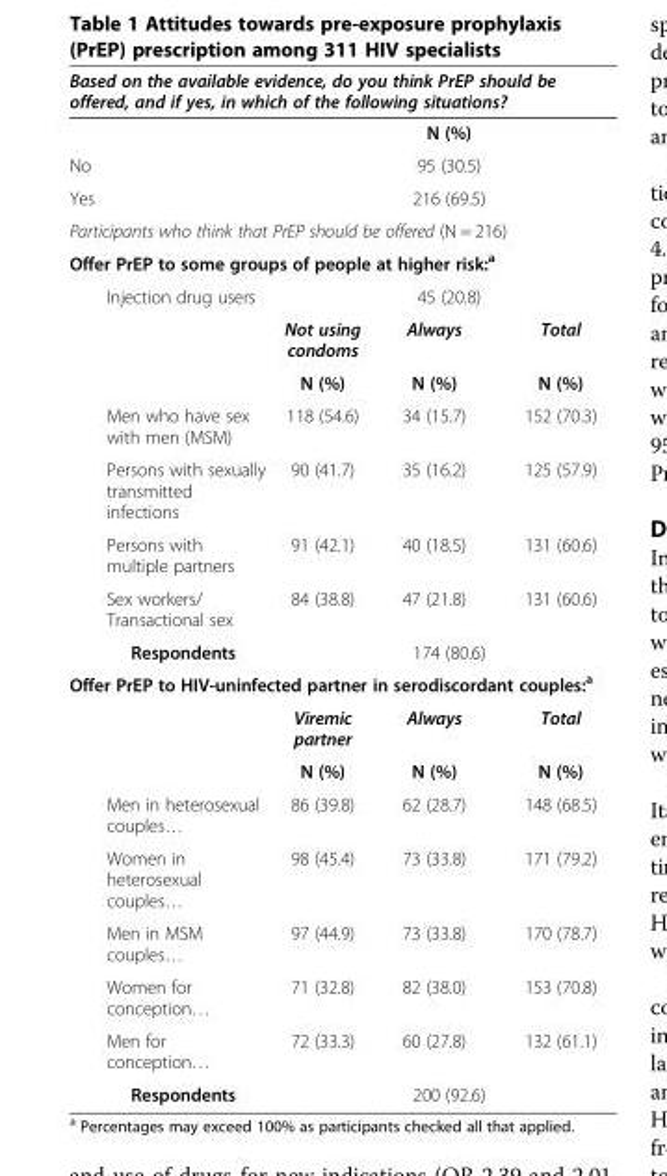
<table><thead><tr><td colspan="4">Based on the available evidence, do you think PrEP should be offered, and if yes, in which of the following situations?</td></tr></thead><tbody><tr><td></td><td colspan="3">N (%)</td></tr><tr><td>No</td><td colspan="3">95 (30.5)</td></tr><tr><td>Yes</td><td colspan="3">216 (69.5)</td></tr><tr><td colspan="4">Participants who think that PrEP should be offered (N = 216)</td></tr><tr><td colspan="4">Offer PrEP to some groups of people at higher risk:<sup>a</sup></td></tr><tr><td rowspan="3">Injection drug users</td><td colspan="3">45 (20.8)</td></tr><tr><td>Not using condoms</td><td>Always</td><td>Total</td></tr><tr><td>N (%)</td><td>N (%)</td><td>N (%)</td></tr><tr><td>Men who have sex with men (MSM)</td><td>118 (54.6)</td><td>34 (15.7)</td><td>152 (70.3)</td></tr><tr><td>Persons with sexually transmitted infections</td><td>90 (41.7)</td><td>35 (16.2)</td><td>125 (57.9)</td></tr><tr><td>Persons with multiple partners</td><td>91 (42.1)</td><td>40 (18.5)</td><td>131 (60.6)</td></tr><tr><td>Sex workers/ Transactional sex</td><td>84 (38.8)</td><td>47 (21.8)</td><td>131 (60.6)</td></tr><tr><td>Respondents</td><td colspan="3">174 (80.6)</td></tr><tr><td colspan="4">Offer PrEP to HIV-uninfected partner in serodiscordant couples:<sup>a</sup></td></tr><tr><td rowspan="2"></td><td>Viremic partner</td><td>Always</td><td>Total</td></tr><tr><td>N (%)</td><td>N (%)</td><td>N (%)</td></tr><tr><td>Men in heterosexual couples…</td><td>86 (39.8)</td><td>62 (28.7)</td><td>148 (68.5)</td></tr><tr><td>Women in heterosexual couples…</td><td>98 (45.4)</td><td>73 (33.8)</td><td>171 (79.2)</td></tr><tr><td>Men in MSM couples…</td><td>97 (44.9)</td><td>73 (33.8)</td><td>170 (78.7)</td></tr><tr><td>Women for conception…</td><td>71 (32.8)</td><td>82 (38.0)</td><td>153 (70.8)</td></tr><tr><td>Men for conception…</td><td>72 (33.3)</td><td>60 (27.8)</td><td>132 (61.1)</td></tr><tr><td>Respondents</td><td colspan="3">200 (92.6)</td></tr></tbody></table>